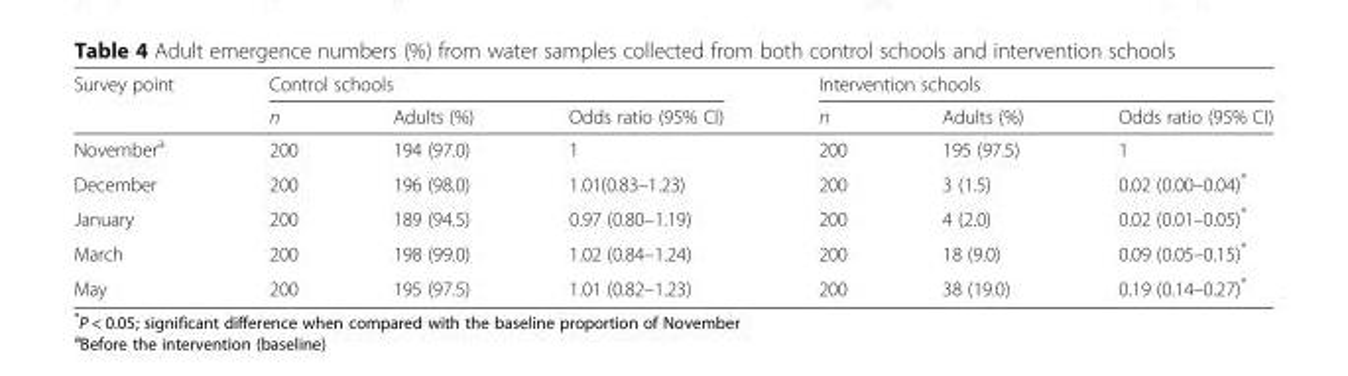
<table><thead><tr><td rowspan="2">Survey point</td><td colspan="3">Control schools</td><td colspan="3">Intervention schools</td></tr><tr><td>n</td><td>Adults (%)</td><td>Odds ratio (95% CI)</td><td>n</td><td>Adults (%)</td><td>Odds ratio (95% CI)</td></tr></thead><tbody><tr><td>November<sup>a</sup></td><td>200</td><td>194 (97.0)</td><td>1</td><td>200</td><td>195 (97.5)</td><td>1</td></tr><tr><td>December</td><td>200</td><td>196 (98.0)</td><td>1.01(0.83–1.23)</td><td>200</td><td>3 (1.5)</td><td>0.02 (0.00–0.04)*</td></tr><tr><td>January</td><td>200</td><td>189 (94.5)</td><td>0.97 (0.80–1.19)</td><td>200</td><td>4 (2.0)</td><td>0.02 (0.01–0.05)*</td></tr><tr><td>March</td><td>200</td><td>198 (99.0)</td><td>1.02 (0.84–1.24)</td><td>200</td><td>18 (9.0)</td><td>0.09 (0.05–0.15)*</td></tr><tr><td>May</td><td>200</td><td>195 (97.5)</td><td>1.01 (0.82–1.23)</td><td>200</td><td>38 (19.0)</td><td>0.19 (0.14–0.27)*</td></tr></tbody></table>